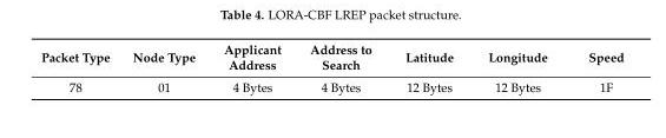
<table><thead><tr><td>Packet Type</td><td>Node Type</td><td>Applicant Address</td><td>Address to Search</td><td>Latitude</td><td>Longitude</td><td>Speed</td></tr></thead><tbody><tr><td>78</td><td>01</td><td>4 Bytes</td><td>4 Bytes</td><td>12 Bytes</td><td>12 Bytes</td><td>1F</td></tr></tbody></table>